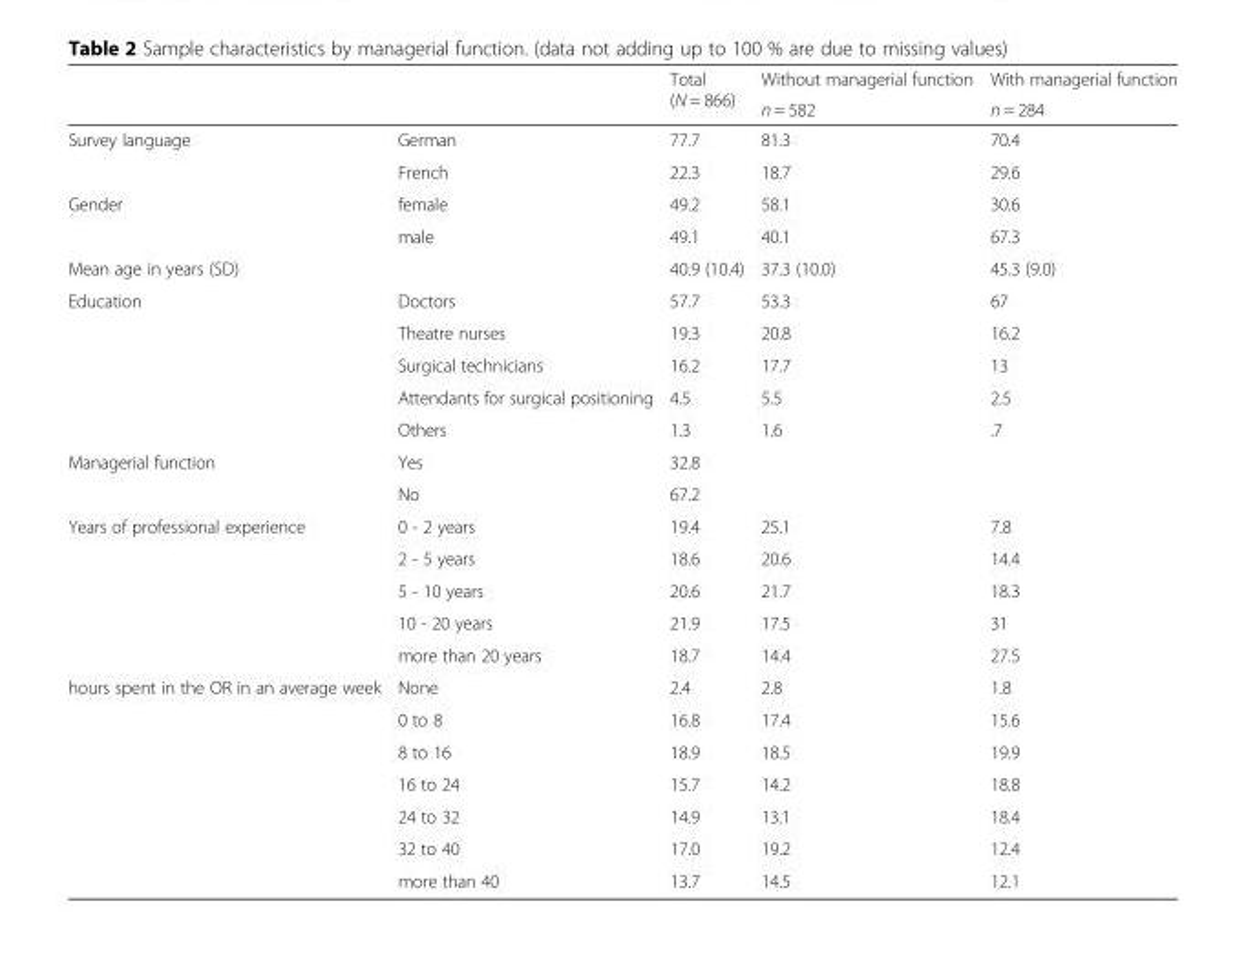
<table><thead><tr><td rowspan="2"></td><td rowspan="2"></td><td rowspan="2">Total (N = 866)</td><td rowspan="2">Without managerial function n = 582</td><td rowspan="2">With managerial function n = 284</td></tr><tr></tr></thead><tbody><tr><td rowspan="2">Survey language</td><td>German</td><td>77.7</td><td>81.3</td><td>70.4</td></tr><tr><td>French</td><td>22.3</td><td>18.7</td><td>29.6</td></tr><tr><td rowspan="2">Gender</td><td>female</td><td>49.2</td><td>58.1</td><td>30.6</td></tr><tr><td>male</td><td>49.1</td><td>40.1</td><td>67.3</td></tr><tr><td>Mean age in years (SD)</td><td></td><td>40.9 (10.4)</td><td>37.3 (10.0)</td><td>45.3 (9.0)</td></tr><tr><td rowspan="5">Education</td><td>Doctors</td><td>57.7</td><td>53.3</td><td>67</td></tr><tr><td>Theatre nurses</td><td>19.3</td><td>20.8</td><td>16.2</td></tr><tr><td>Surgical technicians</td><td>16.2</td><td>17.7</td><td>13</td></tr><tr><td>Attendants for surgical positioning</td><td>4.5</td><td>5.5</td><td>2.5</td></tr><tr><td>Others</td><td>1.3</td><td>1.6</td><td>.7</td></tr><tr><td rowspan="2">Managerial function</td><td>Yes</td><td>32.8</td><td rowspan="2"></td><td rowspan="2"></td></tr><tr><td>No</td><td>67.2</td></tr><tr><td rowspan="5">Years of professional experience</td><td>0 - 2 years</td><td>19.4</td><td>25.1</td><td>7.8</td></tr><tr><td>2 - 5 years</td><td>18.6</td><td>20.6</td><td>14.4</td></tr><tr><td>5 - 10 years</td><td>20.6</td><td>21.7</td><td>18.3</td></tr><tr><td>10 - 20 years</td><td>21.9</td><td>17.5</td><td>31</td></tr><tr><td>more than 20 years</td><td>18.7</td><td>14.4</td><td>27.5</td></tr><tr><td rowspan="7">hours spent in the OR in an average week</td><td>None</td><td>2.4</td><td>2.8</td><td>1.8</td></tr><tr><td>0 to 8</td><td>16.8</td><td>17.4</td><td>15.6</td></tr><tr><td>8 to 16</td><td>18.9</td><td>18.5</td><td>19.9</td></tr><tr><td>16 to 24</td><td>15.7</td><td>14.2</td><td>18.8</td></tr><tr><td>24 to 32</td><td>14.9</td><td>13.1</td><td>18.4</td></tr><tr><td>32 to 40</td><td>17.0</td><td>19.2</td><td>12.4</td></tr><tr><td>more than 40</td><td>13.7</td><td>14.5</td><td>12.1</td></tr></tbody></table>